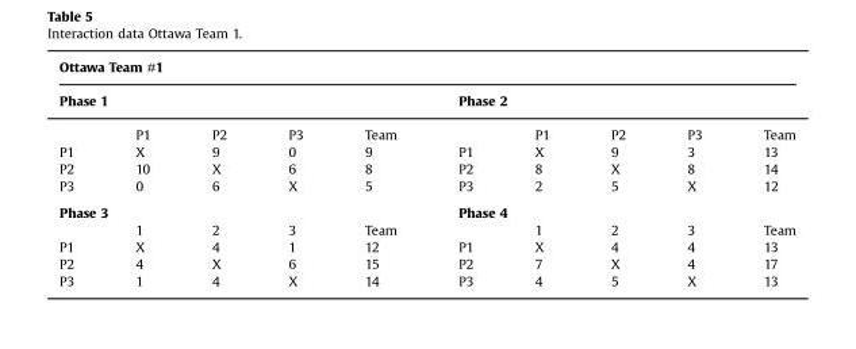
<table><thead><tr><td colspan="10">Ottawa Team #1</td></tr><tr><td colspan="5">Phase 1</td><td colspan="5">Phase 2</td></tr><tr><td></td><td>P1</td><td>P2</td><td>P3</td><td>Team</td><td></td><td>P1</td><td>P2</td><td>P3</td><td>Team</td></tr></thead><tbody><tr><td>P1</td><td>X</td><td>9</td><td>0</td><td>9</td><td>P1</td><td>X</td><td>9</td><td>3</td><td>13</td></tr><tr><td>P2</td><td>10</td><td>X</td><td>6</td><td>8</td><td>P2</td><td>8</td><td>X</td><td>8</td><td>14</td></tr><tr><td>P3</td><td>0</td><td>6</td><td>X</td><td>5</td><td>P3</td><td>2</td><td>5</td><td>X</td><td>12</td></tr><tr><td colspan="5">Phase 3</td><td colspan="5">Phase 4</td></tr><tr><td></td><td>1</td><td>2</td><td>3</td><td>Team</td><td></td><td>1</td><td>2</td><td>3</td><td>Team</td></tr><tr><td>P1</td><td>X</td><td>4</td><td>1</td><td>12</td><td>P1</td><td>X</td><td>4</td><td>4</td><td>13</td></tr><tr><td>P2</td><td>4</td><td>X</td><td>6</td><td>15</td><td>P2</td><td>7</td><td>X</td><td>4</td><td>17</td></tr><tr><td>P3</td><td>1</td><td>4</td><td>X</td><td>14</td><td>P3</td><td>4</td><td>5</td><td>X</td><td>13</td></tr></tbody></table>